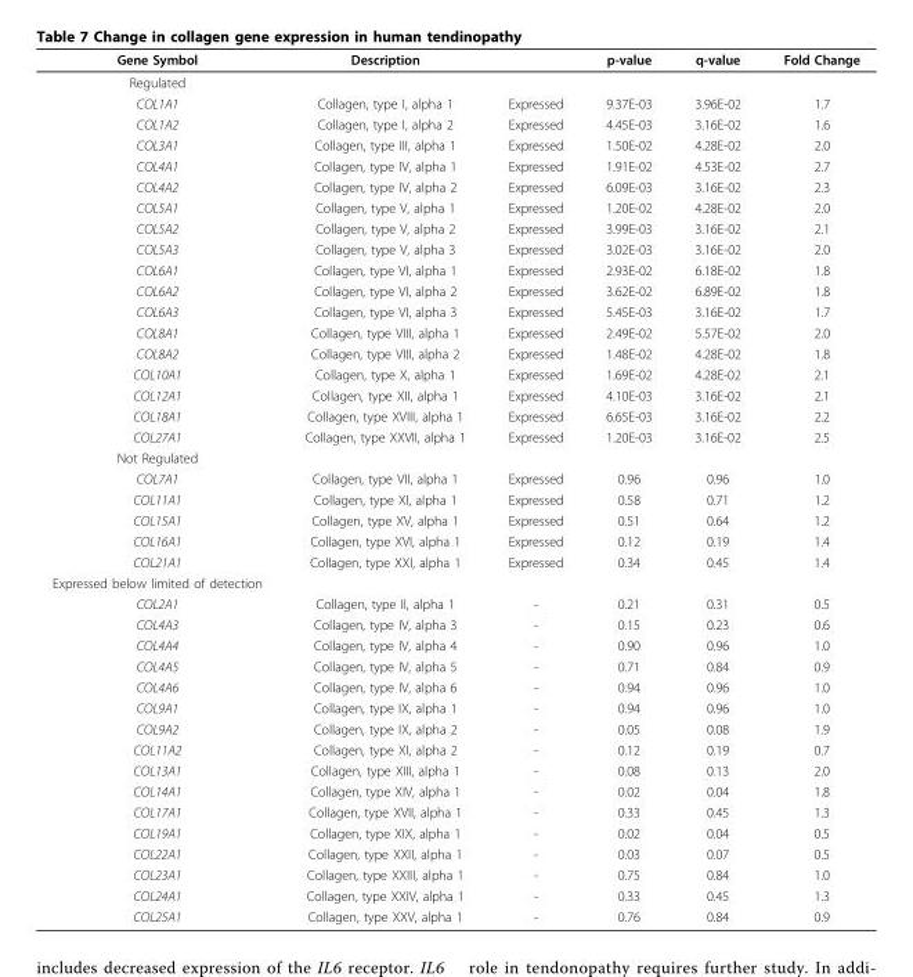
<table><thead><tr><td>Gene Symbol</td><td>Description</td><td></td><td>p-value</td><td>q-value</td><td>Fold Change</td></tr></thead><tbody><tr><td colspan="6">Regulated</td></tr><tr><td>COL1A1</td><td>Collagen, type I, alpha 1</td><td>Expressed</td><td>9.37E-03</td><td>3.96E-02</td><td>1.7</td></tr><tr><td>COL1A2</td><td>Collagen, type I, alpha 2</td><td>Expressed</td><td>4.45E-03</td><td>3.16E-02</td><td>1.6</td></tr><tr><td>COL3A1</td><td>Collagen, type III, alpha 1</td><td>Expressed</td><td>1.50E-02</td><td>4.28E-02</td><td>2.0</td></tr><tr><td>COL4A1</td><td>Collagen, type IV, alpha 1</td><td>Expressed</td><td>1.91E-02</td><td>4.53E-02</td><td>2.7</td></tr><tr><td>COL4A2</td><td>Collagen, type IV, alpha 2</td><td>Expressed</td><td>6.09E-03</td><td>3.16E-02</td><td>2.3</td></tr><tr><td>COL5A1</td><td>Collagen, type V, alpha 1</td><td>Expressed</td><td>1.20E-02</td><td>4.28E-02</td><td>2.0</td></tr><tr><td>COL5A2</td><td>Collagen, type V, alpha 2</td><td>Expressed</td><td>3.99E-03</td><td>3.16E-02</td><td>2.1</td></tr><tr><td>COL5A3</td><td>Collagen, type V, alpha 3</td><td>Expressed</td><td>3.02E-03</td><td>3.16E-02</td><td>2.0</td></tr><tr><td>COL6A1</td><td>Collagen, type VI, alpha 1</td><td>Expressed</td><td>2.93E-02</td><td>6.18E-02</td><td>1.8</td></tr><tr><td>COL6A2</td><td>Collagen, type VI, alpha 2</td><td>Expressed</td><td>3.62E-02</td><td>6.89E-02</td><td>1.8</td></tr><tr><td>COL6A3</td><td>Collagen, type VI, alpha 3</td><td>Expressed</td><td>5.45E-03</td><td>3.16E-02</td><td>1.7</td></tr><tr><td>COL8A1</td><td>Collagen, type VIII, alpha 1</td><td>Expressed</td><td>2.49E-02</td><td>5.57E-02</td><td>2.0</td></tr><tr><td>COL8A2</td><td>Collagen, type VIII, alpha 2</td><td>Expressed</td><td>1.48E-02</td><td>4.28E-02</td><td>1.8</td></tr><tr><td>COL10A1</td><td>Collagen, type X, alpha 1</td><td>Expressed</td><td>1.69E-02</td><td>4.28E-02</td><td>2.1</td></tr><tr><td>COL12A1</td><td>Collagen, type XII, alpha 1</td><td>Expressed</td><td>4.10E-03</td><td>3.16E-02</td><td>2.1</td></tr><tr><td>COL18A1</td><td>Collagen, type XVIII, alpha 1</td><td>Expressed</td><td>6.65E-03</td><td>3.16E-02</td><td>2.2</td></tr><tr><td>COL27A1</td><td>Collagen, type XXVII, alpha 1</td><td>Expressed</td><td>1.20E-03</td><td>3.16E-02</td><td>2.5</td></tr><tr><td colspan="6">Not Regulated</td></tr><tr><td>COL7A1</td><td>Collagen, type VII, alpha 1</td><td>Expressed</td><td>0.96</td><td>0.96</td><td>1.0</td></tr><tr><td>COL11A1</td><td>Collagen, type XI, alpha 1</td><td>Expressed</td><td>0.58</td><td>0.71</td><td>1.2</td></tr><tr><td>COL15A1</td><td>Collagen, type XV, alpha 1</td><td>Expressed</td><td>0.51</td><td>0.64</td><td>1.2</td></tr><tr><td>COL16A1</td><td>Collagen, type XVI, alpha 1</td><td>Expressed</td><td>0.12</td><td>0.19</td><td>1.4</td></tr><tr><td>COL21A1</td><td>Collagen, type XXI, alpha 1</td><td>Expressed</td><td>0.34</td><td>0.45</td><td>1.4</td></tr><tr><td colspan="6">Expressed below limited of detection</td></tr><tr><td>COL2A1</td><td>Collagen, type II, alpha 1</td><td>-</td><td>0.21</td><td>0.31</td><td>0.5</td></tr><tr><td>COL4A3</td><td>Collagen, type IV, alpha 3</td><td>-</td><td>0.15</td><td>0.23</td><td>0.6</td></tr><tr><td>COL4A4</td><td>Collagen, type IV, alpha 4</td><td>-</td><td>0.90</td><td>0.96</td><td>1.0</td></tr><tr><td>COL4A5</td><td>Collagen, type IV, alpha 5</td><td>-</td><td>0.71</td><td>0.84</td><td>0.9</td></tr><tr><td>COL4A6</td><td>Collagen, type IV, alpha 6</td><td>-</td><td>0.94</td><td>0.96</td><td>1.0</td></tr><tr><td>COL9A1</td><td>Collagen, type IX, alpha 1</td><td>-</td><td>0.94</td><td>0.96</td><td>1.0</td></tr><tr><td>COL9A2</td><td>Collagen, type IX, alpha 2</td><td>-</td><td>0.05</td><td>0.08</td><td>1.9</td></tr><tr><td>COL11A2</td><td>Collagen, type XI, alpha 2</td><td>-</td><td>0.12</td><td>0.19</td><td>0.7</td></tr><tr><td>COL13A1</td><td>Collagen, type XIII, alpha 1</td><td>-</td><td>0.08</td><td>0.13</td><td>2.0</td></tr><tr><td>COL14A1</td><td>Collagen, type XIV, alpha 1</td><td>-</td><td>0.02</td><td>0.04</td><td>1.8</td></tr><tr><td>COL17A1</td><td>Collagen, type XVII, alpha 1</td><td>-</td><td>0.33</td><td>0.45</td><td>1.3</td></tr><tr><td>COL19A1</td><td>Collagen, type XIX, alpha 1</td><td>-</td><td>0.02</td><td>0.04</td><td>0.5</td></tr><tr><td>COL22A1</td><td>Collagen, type XXII, alpha 1</td><td>-</td><td>0.03</td><td>0.07</td><td>0.5</td></tr><tr><td>COL23A1</td><td>Collagen, type XXIII, alpha 1</td><td>-</td><td>0.75</td><td>0.84</td><td>1.0</td></tr><tr><td>COL24A1</td><td>Collagen, type XXIV, alpha 1</td><td>-</td><td>0.33</td><td>0.45</td><td>1.3</td></tr><tr><td>COL25A1</td><td>Collagen, type XXV, alpha 1</td><td>-</td><td>0.76</td><td>0.84</td><td>0.9</td></tr></tbody></table>